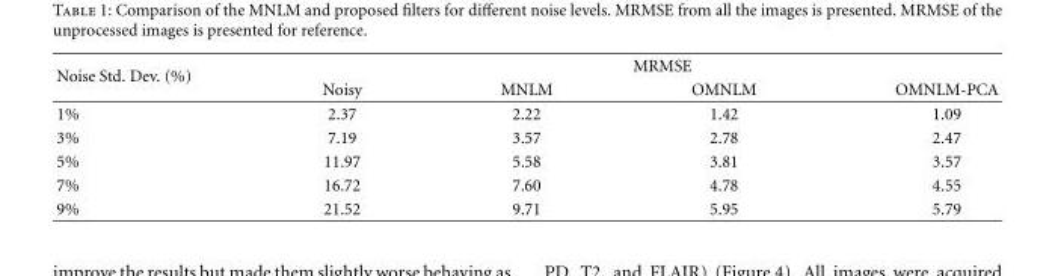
<table><thead><tr><td rowspan="2">Noise Std. Dev. (%)</td><td colspan="4">MRMSE</td></tr><tr><td>Noisy</td><td>MNLM</td><td>OMNLM</td><td>OMNLM-PCA</td></tr></thead><tbody><tr><td>1%</td><td>2.37</td><td>2.22</td><td>1.42</td><td>1.09</td></tr><tr><td>3%</td><td>7.19</td><td>3.57</td><td>2.78</td><td>2.47</td></tr><tr><td>5%</td><td>11.97</td><td>5.58</td><td>3.81</td><td>3.57</td></tr><tr><td>7%</td><td>16.72</td><td>7.60</td><td>4.78</td><td>4.55</td></tr><tr><td>9%</td><td>21.52</td><td>9.71</td><td>5.95</td><td>5.79</td></tr></tbody></table>